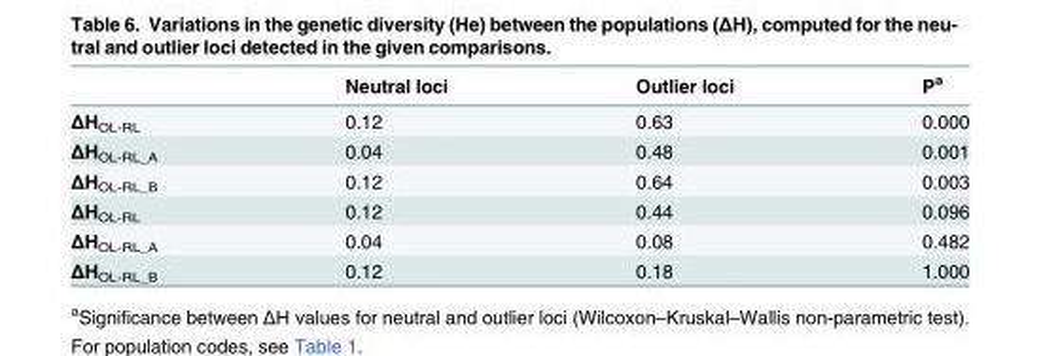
<table><thead><tr><td></td><td>Neutral loci</td><td>Outlier loci</td><td>P<sup>a</sup></td></tr></thead><tbody><tr><td>ΔH<sub>OL-RL</sub></td><td>0.12</td><td>0.63</td><td>0.000</td></tr><tr><td>ΔH<sub>OL-RL_A</sub></td><td>0.04</td><td>0.48</td><td>0.001</td></tr><tr><td>ΔH<sub>OL-RL_B</sub></td><td>0.12</td><td>0.64</td><td>0.003</td></tr><tr><td>ΔH<sub>OL-RL</sub></td><td>0.12</td><td>0.44</td><td>0.096</td></tr><tr><td>ΔH<sub>OL-RL_A</sub></td><td>0.04</td><td>0.08</td><td>0.482</td></tr><tr><td>ΔH<sub>OL-RL_B</sub></td><td>0.12</td><td>0.18</td><td>1.000</td></tr></tbody></table>